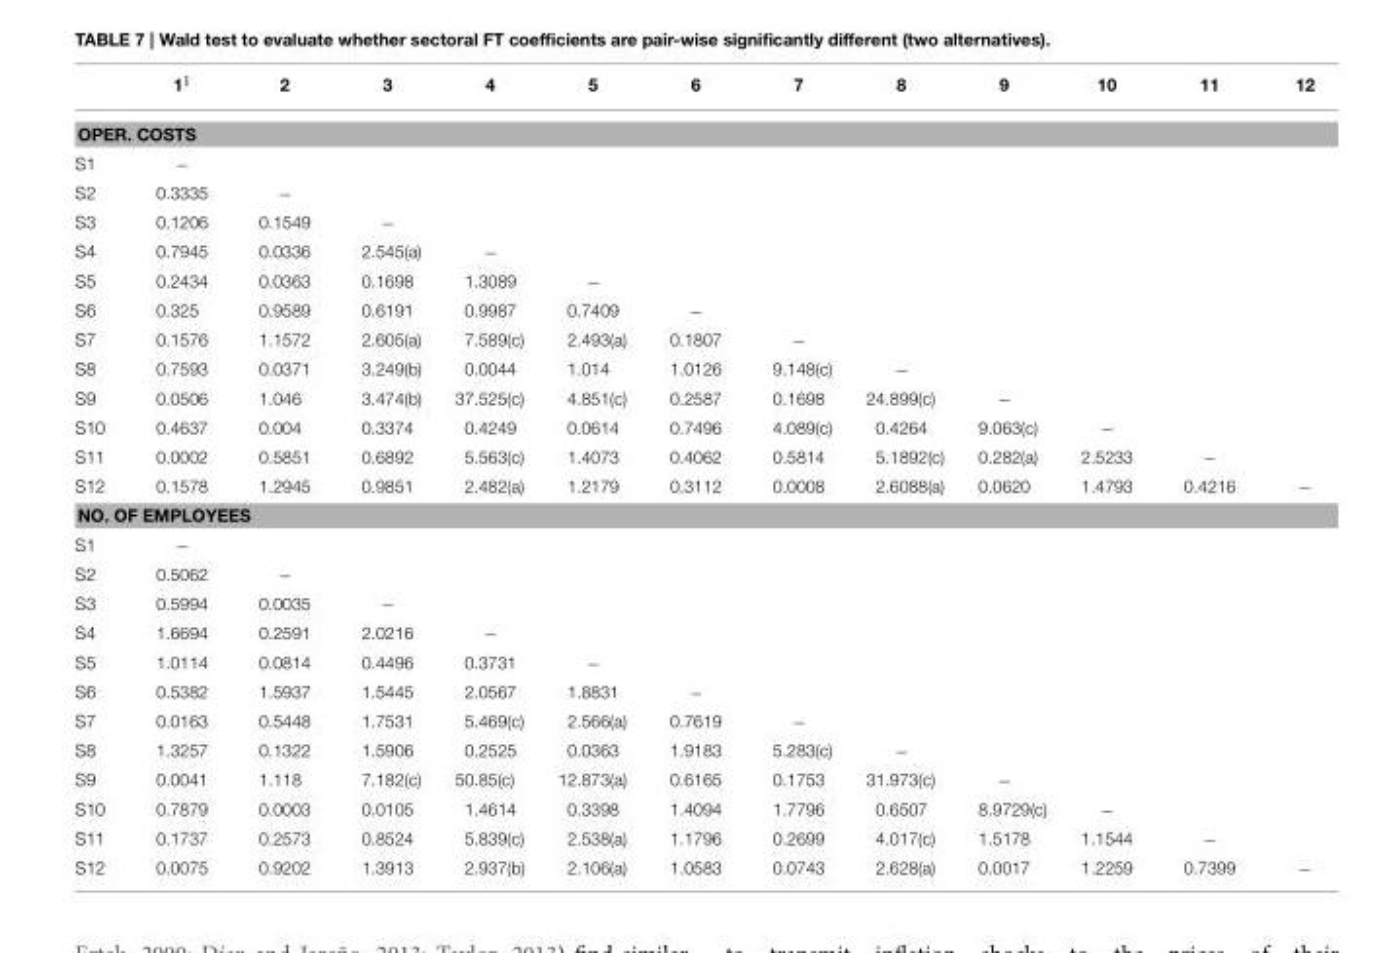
<table><thead><tr><td></td><td>1<sup>1</sup></td><td>2</td><td>3</td><td>4</td><td>5</td><td>6</td><td>7</td><td>8</td><td>9</td><td>10</td><td>11</td><td>12</td></tr></thead><tbody><tr><td colspan="13">OPER. COSTS</td></tr><tr><td>S1</td><td>−</td><td></td><td></td><td></td><td></td><td></td><td></td><td></td><td></td><td></td><td></td><td></td></tr><tr><td>S2</td><td>0.3335</td><td>−</td><td></td><td></td><td></td><td></td><td></td><td></td><td></td><td></td><td></td><td></td></tr><tr><td>S3</td><td>0.1206</td><td>0.1549</td><td>−</td><td></td><td></td><td></td><td></td><td></td><td></td><td></td><td></td><td></td></tr><tr><td>S4</td><td>0.7945</td><td>0.0336</td><td>2.545(a)</td><td>−</td><td></td><td></td><td></td><td></td><td></td><td></td><td></td><td></td></tr><tr><td>S5</td><td>0.2434</td><td>0.0363</td><td>0.1698</td><td>1.3089</td><td>−</td><td></td><td></td><td></td><td></td><td></td><td></td><td></td></tr><tr><td>S6</td><td>0.325</td><td>0.9589</td><td>0.6191</td><td>0.9987</td><td>0.7409</td><td>−</td><td></td><td></td><td></td><td></td><td></td><td></td></tr><tr><td>S7</td><td>0.1576</td><td>1.1572</td><td>2.605(a)</td><td>7.589(c)</td><td>2.493(a)</td><td>0.1807</td><td>−</td><td></td><td></td><td></td><td></td><td></td></tr><tr><td>S8</td><td>0.7593</td><td>0.0371</td><td>3.249(b)</td><td>0.0044</td><td>1.014</td><td>1.0126</td><td>9.148(c)</td><td>−</td><td></td><td></td><td></td><td></td></tr><tr><td>S9</td><td>0.0506</td><td>1.046</td><td>3.474(b)</td><td>37.525(c)</td><td>4.851(c)</td><td>0.2587</td><td>0.1698</td><td>24.899(c)</td><td>−</td><td></td><td></td><td></td></tr><tr><td>S10</td><td>0.4637</td><td>0.004</td><td>0.3374</td><td>0.4249</td><td>0.0614</td><td>0.7496</td><td>4.089(c)</td><td>0.4264</td><td>9.063(c)</td><td>−</td><td></td><td></td></tr><tr><td>S11</td><td>0.0002</td><td>0.5851</td><td>0.6892</td><td>5.563(c)</td><td>1.4073</td><td>0.4062</td><td>0.5814</td><td>5.1892(c)</td><td>0.282(a)</td><td>2.5233</td><td>−</td><td></td></tr><tr><td>S12</td><td>0.1578</td><td>1.2945</td><td>0.9851</td><td>2.482(a)</td><td>1.2179</td><td>0.3112</td><td>0.0008</td><td>2.6088(a)</td><td>0.0620</td><td>1.4793</td><td>0.4216</td><td>−</td></tr><tr><td colspan="13">NO. OF EMPLOYEES</td></tr><tr><td>S1</td><td>−</td><td></td><td></td><td></td><td></td><td></td><td></td><td></td><td></td><td></td><td></td><td></td></tr><tr><td>S2</td><td>0.5062</td><td>−</td><td></td><td></td><td></td><td></td><td></td><td></td><td></td><td></td><td></td><td></td></tr><tr><td>S3</td><td>0.5994</td><td>0.0035</td><td>−</td><td></td><td></td><td></td><td></td><td></td><td></td><td></td><td></td><td></td></tr><tr><td>S4</td><td>1.6694</td><td>0.2591</td><td>2.0216</td><td>−</td><td></td><td></td><td></td><td></td><td></td><td></td><td></td><td></td></tr><tr><td>S5</td><td>1.0114</td><td>0.0814</td><td>0.4496</td><td>0.3731</td><td>−</td><td></td><td></td><td></td><td></td><td></td><td></td><td></td></tr><tr><td>S6</td><td>0.5382</td><td>1.5937</td><td>1.5445</td><td>2.0567</td><td>1.8831</td><td>−</td><td></td><td></td><td></td><td></td><td></td><td></td></tr><tr><td>S7</td><td>0.0163</td><td>0.5448</td><td>1.7531</td><td>5.469(c)</td><td>2.566(a)</td><td>0.7619</td><td>−</td><td></td><td></td><td></td><td></td><td></td></tr><tr><td>S8</td><td>1.3257</td><td>0.1322</td><td>1.5906</td><td>0.2525</td><td>0.0363</td><td>1.9183</td><td>5.283(c)</td><td>−</td><td></td><td></td><td></td><td></td></tr><tr><td>S9</td><td>0.0041</td><td>1.118</td><td>7.182(c)</td><td>50.85(c)</td><td>12.873(a)</td><td>0.6165</td><td>0.1753</td><td>31.973(c)</td><td>−</td><td></td><td></td><td></td></tr><tr><td>S10</td><td>0.7879</td><td>0.0003</td><td>0.0105</td><td>1.4614</td><td>0.3398</td><td>1.4094</td><td>1.7796</td><td>0.6507</td><td>8.9729(c)</td><td>−</td><td></td><td></td></tr><tr><td>S11</td><td>0.1737</td><td>0.2573</td><td>0.8524</td><td>5.839(c)</td><td>2.538(a)</td><td>1.1796</td><td>0.2699</td><td>4.017(c)</td><td>1.5178</td><td>1.1544</td><td>−</td><td></td></tr><tr><td>S12</td><td>0.0075</td><td>0.9202</td><td>1.3913</td><td>2.937(b)</td><td>2.106(a)</td><td>1.0583</td><td>0.0743</td><td>2.628(a)</td><td>0.0017</td><td>1.2259</td><td>0.7399</td><td>−</td></tr></tbody></table>